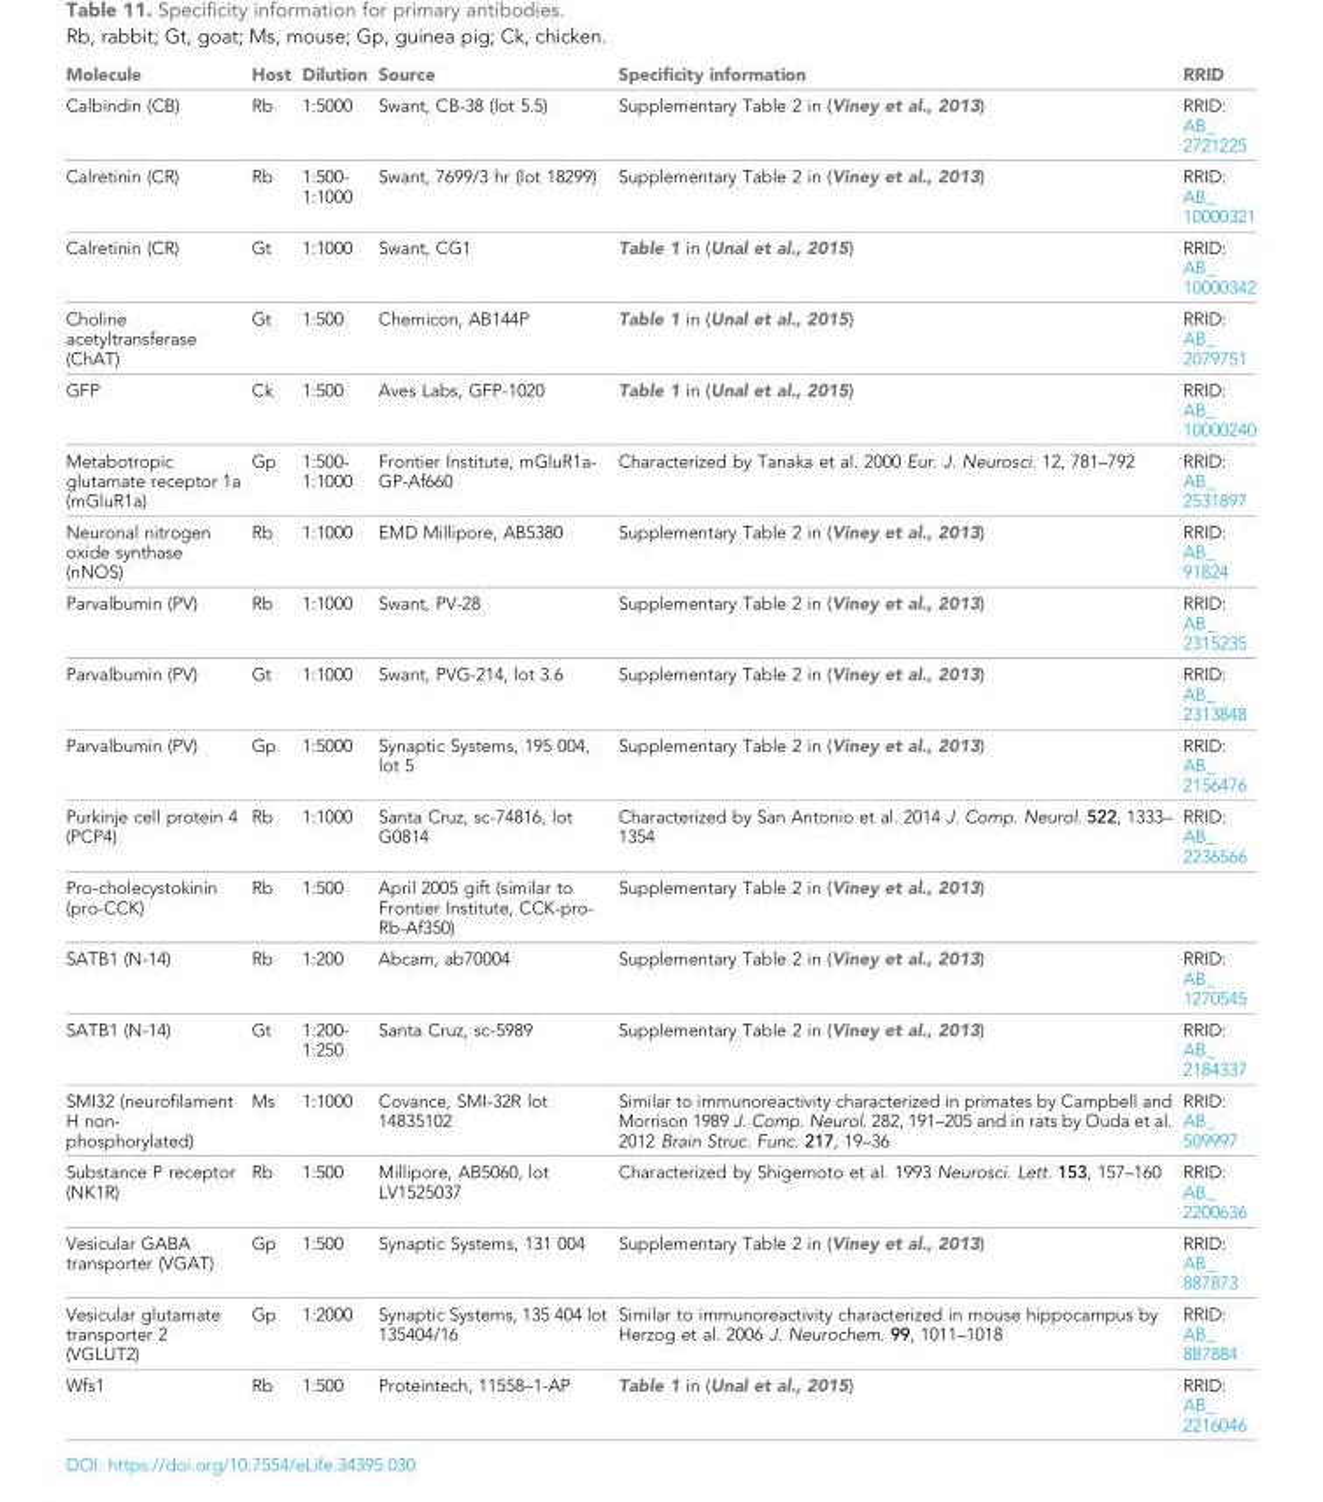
<table><thead><tr><td>Molecule</td><td>Host</td><td>Dilution</td><td>Source</td><td>Specificity information</td><td>RRID</td></tr></thead><tbody><tr><td>Calbindin (CB)</td><td>Rb</td><td>1:5000</td><td>Swant, CB-38 (lot 5.5)</td><td>Supplementary Table 2 in (Viney et al., 2013)</td><td>RRID: AB_ 2721225</td></tr><tr><td>Calretinin (CR)</td><td>Rb</td><td>1:500- 1:1000</td><td>Swant, 7699/3 hr (lot 18299)</td><td>Supplementary Table 2 in (Viney et al., 2013)</td><td>RRID: AB_ 10000321</td></tr><tr><td>Calretinin (CR)</td><td>Gt</td><td>1:1000</td><td>Swant, CG1</td><td>Table 1 in (Unal et al., 2015)</td><td>RRID: AB_ 10000342</td></tr><tr><td>Choline acetyltransferase (ChAT)</td><td>Gt</td><td>1:500</td><td>Chemicon, AB144P</td><td>Table 1 in (Unal et al., 2015)</td><td>RRID: AB_ 2079751</td></tr><tr><td>GFP</td><td>Ck</td><td>1:500</td><td>Aves Labs, GFP-1020</td><td>Table 1 in (Unal et al., 2015)</td><td>RRID: AB_ 10000240</td></tr><tr><td>Metabotropic glutamate receptor 1a (mGluR1a)</td><td>Gp</td><td>1:500- 1:1000</td><td>Frontier Institute, mGluR1a- GP-Af660</td><td>Characterized by Tanaka et al. 2000 Eur. J. Neurosci. 12, 781–792</td><td>RRID: AB_ 2531897</td></tr><tr><td>Neuronal nitrogen oxide synthase (nNOS)</td><td>Rb</td><td>1:1000</td><td>EMD Millipore, AB5380</td><td>Supplementary Table 2 in (Viney et al., 2013)</td><td>RRID: AB_ 91824</td></tr><tr><td>Parvalbumin (PV)</td><td>Rb</td><td>1:1000</td><td>Swant, PV-28</td><td>Supplementary Table 2 in (Viney et al., 2013)</td><td>RRID: AB_ 2315235</td></tr><tr><td>Parvalbumin (PV)</td><td>Gt</td><td>1:1000</td><td>Swant, PVG-214, lot 3.6</td><td>Supplementary Table 2 in (Viney et al., 2013)</td><td>RRID: AB_ 2313848</td></tr><tr><td>Parvalbumin (PV)</td><td>Gp</td><td>1:5000</td><td>Synaptic Systems, 195 004, lot 5</td><td>Supplementary Table 2 in (Viney et al., 2013)</td><td>RRID: AB_ 2156476</td></tr><tr><td>Purkinje cell protein 4 (PCP4)</td><td>Rb</td><td>1:1000</td><td>Santa Cruz, sc-74816, lot G0814</td><td>Characterized by San Antonio et al. 2014 J. Comp. Neurol. 522, 1333– 1354</td><td>RRID: AB_ 2236566</td></tr><tr><td>Pro-cholecystokinin (pro-CCK)</td><td>Rb</td><td>1:500</td><td>April 2005 gift (similar to Frontier Institute, CCK-pro- Rb-Af350)</td><td>Supplementary Table 2 in (Viney et al., 2013)</td><td></td></tr><tr><td>SATB1 (N-14)</td><td>Rb</td><td>1:200</td><td>Abcam, ab70004</td><td>Supplementary Table 2 in (Viney et al., 2013)</td><td>RRID: AB_ 1270545</td></tr><tr><td>SATB1 (N-14)</td><td>Gt</td><td>1:200- 1:250</td><td>Santa Cruz, sc-5989</td><td>Supplementary Table 2 in (Viney et al., 2013)</td><td>RRID: AB_ 2184337</td></tr><tr><td>SMI32 (neurofilament H non- phosphorylated)</td><td>Ms</td><td>1:1000</td><td>Covance, SMI-32R lot 14835102</td><td>Similar to immunoreactivity characterized in primates by Campbell and Morrison 1989 J. Comp. Neurol. 282, 191–205 and in rats by Ouda et al. 2012 Brain Struc. Func. 217, 19–36</td><td>RRID: AB_ 509997</td></tr><tr><td>Substance P receptor (NK1R)</td><td>Rb</td><td>1:500</td><td>Millipore, AB5060, lot LV1525037</td><td>Characterized by Shigemoto et al. 1993 Neurosci. Lett. 153, 157–160</td><td>RRID: AB_ 2200636</td></tr><tr><td>Vesicular GABA transporter (VGAT)</td><td>Gp</td><td>1:500</td><td>Synaptic Systems, 131 004</td><td>Supplementary Table 2 in (Viney et al., 2013)</td><td>RRID: AB_ 887873</td></tr><tr><td>Vesicular glutamate transporter 2 (VGLUT2)</td><td>Gp</td><td>1:2000</td><td>Synaptic Systems, 135 404 lot 135404/16</td><td>Similar to immunoreactivity characterized in mouse hippocampus by Herzog et al. 2006 J. Neurochem. 99, 1011–1018</td><td>RRID: AB_ 887884</td></tr><tr><td>Wfs1</td><td>Rb</td><td>1:500</td><td>Proteintech, 11558–1-AP</td><td>Table 1 in (Unal et al., 2015)</td><td>RRID: AB_ 2216046</td></tr></tbody></table>